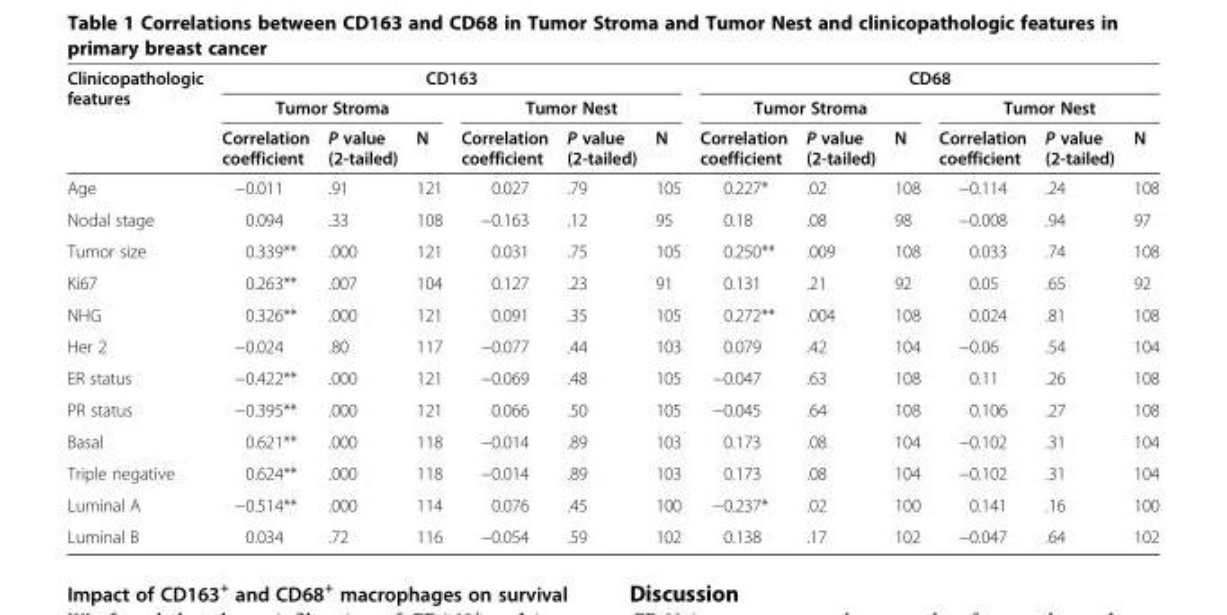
<table><thead><tr><td rowspan="3">Clinicopathologic features</td><td colspan="6">CD163</td><td colspan="6">CD68</td></tr><tr><td colspan="3">Tumor Stroma</td><td colspan="3">Tumor Nest</td><td colspan="3">Tumor Stroma</td><td colspan="3">Tumor Nest</td></tr><tr><td>Correlation coefficient</td><td>P value (2-tailed)</td><td>N</td><td>Correlation coefficient</td><td>P value (2-tailed)</td><td>N</td><td>Correlation coefficient</td><td>P value (2-tailed)</td><td>N</td><td>Correlation coefficient</td><td>P value (2-tailed)</td><td>N</td></tr></thead><tbody><tr><td>Age</td><td>−0.011</td><td>.91</td><td>121</td><td>0.027</td><td>.79</td><td>105</td><td>0.227*</td><td>.02</td><td>108</td><td>−0.114</td><td>.24</td><td>108</td></tr><tr><td>Nodal stage</td><td>0.094</td><td>.33</td><td>108</td><td>−0.163</td><td>.12</td><td>95</td><td>0.18</td><td>.08</td><td>98</td><td>−0.008</td><td>.94</td><td>97</td></tr><tr><td>Tumor size</td><td>0.339**</td><td>.000</td><td>121</td><td>0.031</td><td>.75</td><td>105</td><td>0.250**</td><td>.009</td><td>108</td><td>0.033</td><td>.74</td><td>108</td></tr><tr><td>Ki67</td><td>0.263**</td><td>.007</td><td>104</td><td>0.127</td><td>.23</td><td>91</td><td>0.131</td><td>.21</td><td>92</td><td>0.05</td><td>.65</td><td>92</td></tr><tr><td>NHG</td><td>0.326**</td><td>.000</td><td>121</td><td>0.091</td><td>.35</td><td>105</td><td>0.272**</td><td>.004</td><td>108</td><td>0.024</td><td>.81</td><td>108</td></tr><tr><td>Her 2</td><td>−0.024</td><td>.80</td><td>117</td><td>−0.077</td><td>.44</td><td>103</td><td>0.079</td><td>.42</td><td>104</td><td>−0.06</td><td>.54</td><td>104</td></tr><tr><td>ER status</td><td>−0.422**</td><td>.000</td><td>121</td><td>−0.069</td><td>.48</td><td>105</td><td>−0.047</td><td>.63</td><td>108</td><td>0.11</td><td>.26</td><td>108</td></tr><tr><td>PR status</td><td>−0.395**</td><td>.000</td><td>121</td><td>0.066</td><td>.50</td><td>105</td><td>−0.045</td><td>.64</td><td>108</td><td>0.106</td><td>.27</td><td>108</td></tr><tr><td>Basal</td><td>0.621**</td><td>.000</td><td>118</td><td>−0.014</td><td>.89</td><td>103</td><td>0.173</td><td>.08</td><td>104</td><td>−0.102</td><td>.31</td><td>104</td></tr><tr><td>Triple negative</td><td>0.624**</td><td>.000</td><td>118</td><td>−0.014</td><td>.89</td><td>103</td><td>0.173</td><td>.08</td><td>104</td><td>−0.102</td><td>.31</td><td>104</td></tr><tr><td>Luminal A</td><td>−0.514**</td><td>.000</td><td>114</td><td>0.076</td><td>.45</td><td>100</td><td>−0.237*</td><td>.02</td><td>100</td><td>0.141</td><td>.16</td><td>100</td></tr><tr><td>Luminal B</td><td>0.034</td><td>.72</td><td>116</td><td>−0.054</td><td>.59</td><td>102</td><td>0.138</td><td>.17</td><td>102</td><td>−0.047</td><td>.64</td><td>102</td></tr></tbody></table>